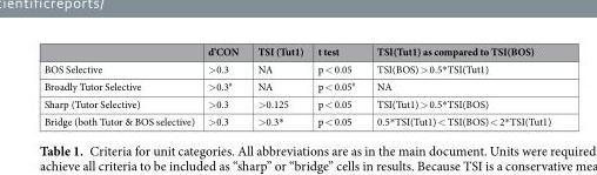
<table><thead><tr><td></td><td>d’CON</td><td>TSI (Tut1)</td><td>t test</td><td>TSI(Tut1) as compared to TSI(BOS)</td></tr></thead><tbody><tr><td>BOS Selective</td><td>&gt;0.3</td><td>NA</td><td>p &lt; 0.05</td><td>TSI(BOS) &gt; 0.5*TSI(Tut1)</td></tr><tr><td>Broadly Tutor Selective</td><td>&gt;0.3<sup>#</sup></td><td>NA</td><td>p &lt; 0.05<sup>#</sup></td><td>NA</td></tr><tr><td>Sharp (Tutor Selective)</td><td>&gt;0.3</td><td>&gt;0.125</td><td>p &lt; 0.05</td><td>TSI(Tut1) &gt; 0.5*TSI(BOS)</td></tr><tr><td>Bridge (both Tutor &amp; BOS selective)</td><td>&gt;0.3</td><td>&gt;0.3*</td><td>p &lt; 0.05</td><td>0.5*TSI(Tut1) &lt; TSI(BOS) &lt; 2*TSI(Tut1)</td></tr></tbody></table>